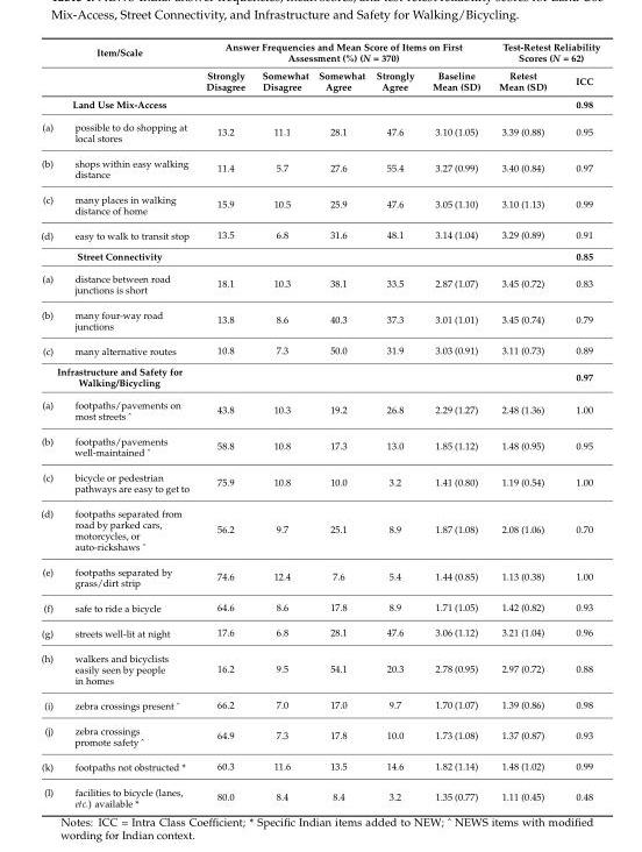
<table><thead><tr><td rowspan="2">Item/Scale</td><td colspan="5">Answer Frequencies and Mean Score of Items on First Assessment (%) (N = 370)</td><td colspan="2">Test-Retest Reliability Scores (N = 62)</td></tr><tr><td>Strongly Disagree</td><td>Somewhat Disagree</td><td>Somewhat Agree</td><td>Strongly Agree</td><td>Baseline Mean (SD)</td><td>Retest Mean (SD)</td><td>ICC</td></tr></thead><tbody><tr><td>Land Use Mix-Access</td><td></td><td></td><td></td><td></td><td></td><td></td><td>0.98</td></tr><tr><td>(a) possible to do shopping at local stores</td><td>13.2</td><td>11.1</td><td>28.1</td><td>47.6</td><td>3.10 (1.05)</td><td>3.39 (0.88)</td><td>0.95</td></tr><tr><td>(b) shops within easy walking distance</td><td>11.4</td><td>5.7</td><td>27.6</td><td>55.4</td><td>3.27 (0.99)</td><td>3.40 (0.84)</td><td>0.97</td></tr><tr><td>(c) many places in walking distance of home</td><td>15.9</td><td>10.5</td><td>25.9</td><td>47.6</td><td>3.05 (1.10)</td><td>3.10 (1.13)</td><td>0.99</td></tr><tr><td>(d) easy to walk to transit stop</td><td>13.5</td><td>6.8</td><td>31.6</td><td>48.1</td><td>3.14 (1.04)</td><td>3.29 (0.89)</td><td>0.91</td></tr><tr><td>Street Connectivity</td><td></td><td></td><td></td><td></td><td></td><td></td><td>0.85</td></tr><tr><td>(a) distance between road junctions is short</td><td>18.1</td><td>10.3</td><td>38.1</td><td>33.5</td><td>2.87 (1.07)</td><td>3.45 (0.72)</td><td>0.83</td></tr><tr><td>(b) many four-way road junctions</td><td>13.8</td><td>8.6</td><td>40.3</td><td>37.3</td><td>3.01 (1.01)</td><td>3.45 (0.74)</td><td>0.79</td></tr><tr><td>(c) many alternative routes</td><td>10.8</td><td>7.3</td><td>50.0</td><td>31.9</td><td>3.03 (0.91)</td><td>3.11 (0.73)</td><td>0.89</td></tr><tr><td>Infrastructure and Safety for Walking/Bicycling</td><td></td><td></td><td></td><td></td><td></td><td></td><td>0.97</td></tr><tr><td>(a) footpaths/pavements on most streets ˆ</td><td>43.8</td><td>10.3</td><td>19.2</td><td>26.8</td><td>2.29 (1.27)</td><td>2.48 (1.36)</td><td>1.00</td></tr><tr><td>(b) footpaths/pavements well-maintained ˆ</td><td>58.8</td><td>10.8</td><td>17.3</td><td>13.0</td><td>1.85 (1.12)</td><td>1.48 (0.95)</td><td>0.95</td></tr><tr><td>(c) bicycle or pedestrian pathways are easy to get to</td><td>75.9</td><td>10.8</td><td>10.0</td><td>3.2</td><td>1.41 (0.80)</td><td>1.19 (0.54)</td><td>1.00</td></tr><tr><td>(d) footpaths separated from road by parked cars, motorcycles, or auto-rickshaws ˆ</td><td>56.2</td><td>9.7</td><td>25.1</td><td>8.9</td><td>1.87 (1.08)</td><td>2.08 (1.06)</td><td>0.70</td></tr><tr><td>(e) footpaths separated by grass/dirt strip</td><td>74.6</td><td>12.4</td><td>7.6</td><td>5.4</td><td>1.44 (0.85)</td><td>1.13 (0.38)</td><td>1.00</td></tr><tr><td>(f) safe to ride a bicycle</td><td>64.6</td><td>8.6</td><td>17.8</td><td>8.9</td><td>1.71 (1.05)</td><td>1.42 (0.82)</td><td>0.93</td></tr><tr><td>(g) streets well-lit at night</td><td>17.6</td><td>6.8</td><td>28.1</td><td>47.6</td><td>3.06 (1.12)</td><td>3.21 (1.04)</td><td>0.96</td></tr><tr><td>(h) walkers and bicyclists easily seen by people in homes</td><td>16.2</td><td>9.5</td><td>54.1</td><td>20.3</td><td>2.78 (0.95)</td><td>2.97 (0.72)</td><td>0.88</td></tr><tr><td>(i) zebra crossings present ˆ</td><td>66.2</td><td>7.0</td><td>17.0</td><td>9.7</td><td>1.70 (1.07)</td><td>1.39 (0.86)</td><td>0.98</td></tr><tr><td>(j) zebra crossings promote safety ˆ</td><td>64.9</td><td>7.3</td><td>17.8</td><td>10.0</td><td>1.73 (1.08)</td><td>1.37 (0.87)</td><td>0.93</td></tr><tr><td>(k) footpaths not obstructed *</td><td>60.3</td><td>11.6</td><td>13.5</td><td>14.6</td><td>1.82 (1.14)</td><td>1.48 (1.02)</td><td>0.99</td></tr><tr><td>(l) facilities to bicycle (lanes, etc.) available *</td><td>80.0</td><td>8.4</td><td>8.4</td><td>3.2</td><td>1.35 (0.77)</td><td>1.11 (0.45)</td><td>0.48</td></tr></tbody></table>